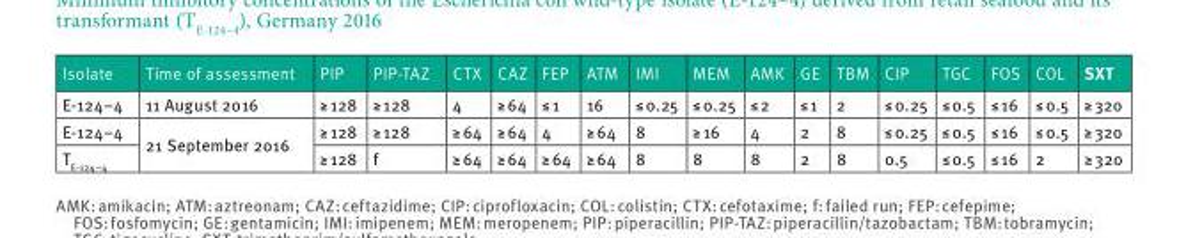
<table><thead><tr><td>Isolate</td><td>Time of assessment</td><td>PIP</td><td>PIP-TAZ</td><td>CTX</td><td>CAZ</td><td>FEP</td><td>ATM</td><td>IMI</td><td>MEM</td><td>AMK</td><td>GE</td><td>TBM</td><td>CIP</td><td>TGC</td><td>FOS</td><td>COL</td><td>SXT</td></tr></thead><tbody><tr><td>E-124–4</td><td>11 August 2016</td><td>≥ 128</td><td>≥ 128</td><td>4</td><td>≥ 64</td><td>≤ 1</td><td>16</td><td>≤ 0.25</td><td>≤ 0.25</td><td>≤ 2</td><td>≤ 1</td><td>2</td><td>≤ 0.25</td><td>≤ 0.5</td><td>≤ 16</td><td>≤ 0.5</td><td>≥ 320</td></tr><tr><td>E-124–4</td><td rowspan="2">21 September 2016</td><td>≥ 128</td><td>≥ 128</td><td>≥ 64</td><td>≥ 64</td><td>4</td><td>≥ 64</td><td>8</td><td>≥ 16</td><td>4</td><td>2</td><td>8</td><td>≤ 0.25</td><td>≤ 0.5</td><td>≤ 16</td><td>≤ 0.5</td><td>≥ 320</td></tr><tr><td>T<sub>E-124–4</sub></td><td>≥ 128</td><td>f</td><td>≥ 64</td><td>≥ 64</td><td>≥ 64</td><td>≥ 64</td><td>8</td><td>8</td><td>8</td><td>2</td><td>8</td><td>0.5</td><td>≤ 0.5</td><td>≤ 16</td><td>2</td><td>≥ 320</td></tr></tbody></table>